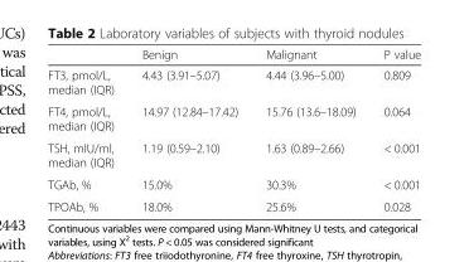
<table><thead><tr><td></td><td>Benign</td><td>Malignant</td><td>P value</td></tr></thead><tbody><tr><td>FT3, pmol/L, median (IQR)</td><td>4.43 (3.91–5.07)</td><td>4.44 (3.96–5.00)</td><td>0.809</td></tr><tr><td>FT4, pmol/L, median (IQR)</td><td>14.97 (12.84–17.42)</td><td>15.76 (13.6–18.09)</td><td>0.064</td></tr><tr><td>TSH, mIU/ml, median (IQR)</td><td>1.19 (0.59–2.10)</td><td>1.63 (0.89–2.66)</td><td>&lt; 0.001</td></tr><tr><td>TGAb, %</td><td>15.0%</td><td>30.3%</td><td>&lt; 0.001</td></tr><tr><td>TPOAb, %</td><td>18.0%</td><td>25.6%</td><td>0.028</td></tr></tbody></table>